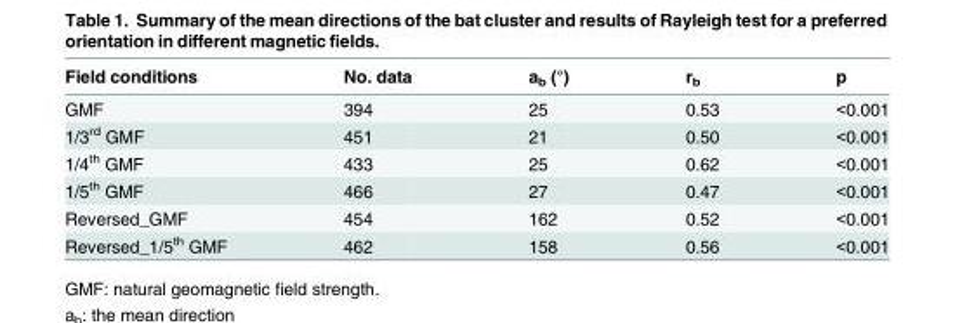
<table><thead><tr><td>Field conditions</td><td>No. data</td><td>a<sub>b</sub> (°)</td><td>r<sub>b</sub></td><td>p</td></tr></thead><tbody><tr><td>GMF</td><td>394</td><td>25</td><td>0.53</td><td>&lt;0.001</td></tr><tr><td>1/3<sup>rd</sup> GMF</td><td>451</td><td>21</td><td>0.50</td><td>&lt;0.001</td></tr><tr><td>1/4<sup>th</sup> GMF</td><td>433</td><td>25</td><td>0.62</td><td>&lt;0.001</td></tr><tr><td>1/5<sup>th</sup> GMF</td><td>466</td><td>27</td><td>0.47</td><td>&lt;0.001</td></tr><tr><td>Reversed_GMF</td><td>454</td><td>162</td><td>0.52</td><td>&lt;0.001</td></tr><tr><td>Reversed_1/5<sup>th</sup> GMF</td><td>462</td><td>158</td><td>0.56</td><td>&lt;0.001</td></tr></tbody></table>